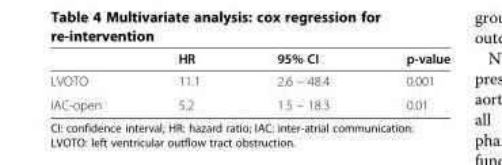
<table><thead><tr><td></td><td>HR</td><td>95% CI</td><td>p-value</td></tr></thead><tbody><tr><td>LVOTO</td><td>11.1</td><td>2.6 – 48.4</td><td>0.001</td></tr><tr><td>IAC-open</td><td>5.2</td><td>1.5 – 18.3</td><td>0.01</td></tr></tbody></table>